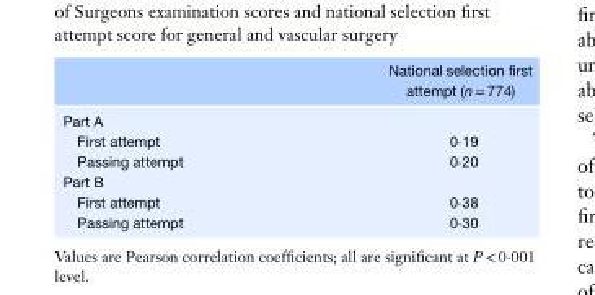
<table><thead><tr><td></td><td>National selection first attempt (n = 774)</td></tr></thead><tbody><tr><td colspan="2">Part A</td></tr><tr><td>First attempt</td><td>0⋅19</td></tr><tr><td>Passing attempt</td><td>0⋅20</td></tr><tr><td colspan="2">Part B</td></tr><tr><td>First attempt</td><td>0⋅38</td></tr><tr><td>Passing attempt</td><td>0⋅30</td></tr></tbody></table>